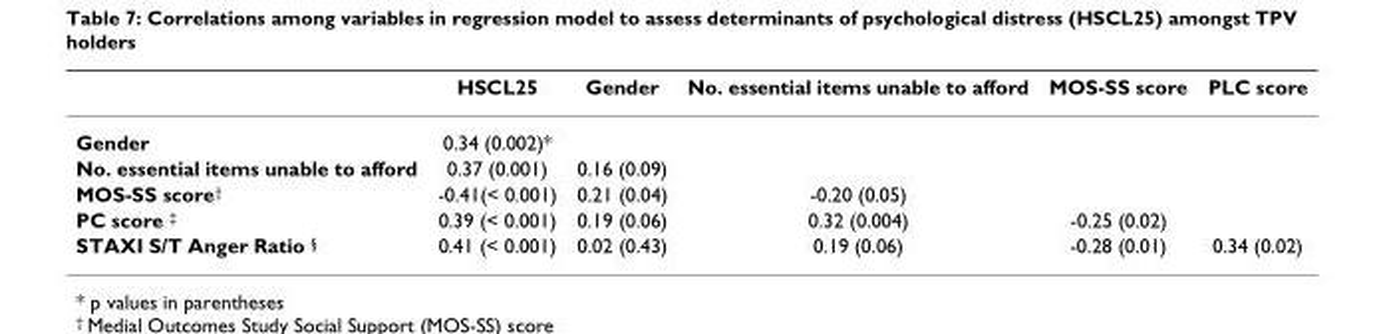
<table><thead><tr><td></td><td>HSCL25</td><td>Gender</td><td>No. essential items unable to afford</td><td>MOS-SS score</td><td>PLC score</td></tr></thead><tbody><tr><td>Gender</td><td>0.34 (0.002)*</td><td></td><td></td><td></td><td></td></tr><tr><td>No. essential items unable to afford</td><td>0.37 (0.001)</td><td>0.16 (0.09)</td><td></td><td></td><td></td></tr><tr><td>MOS-SS score<sup>†</sup></td><td>-0.41(&lt; 0.001)</td><td>0.21 (0.04)</td><td>-0.20 (0.05)</td><td></td><td></td></tr><tr><td>PC score <sup>‡</sup></td><td>0.39 (&lt; 0.001)</td><td>0.19 (0.06)</td><td>0.32 (0.004)</td><td>-0.25 (0.02)</td><td></td></tr><tr><td>STAXI S/T Anger Ratio <sup>§</sup></td><td>0.41 (&lt; 0.001)</td><td>0.02 (0.43)</td><td>0.19 (0.06)</td><td>-0.28 (0.01)</td><td>0.34 (0.02)</td></tr></tbody></table>